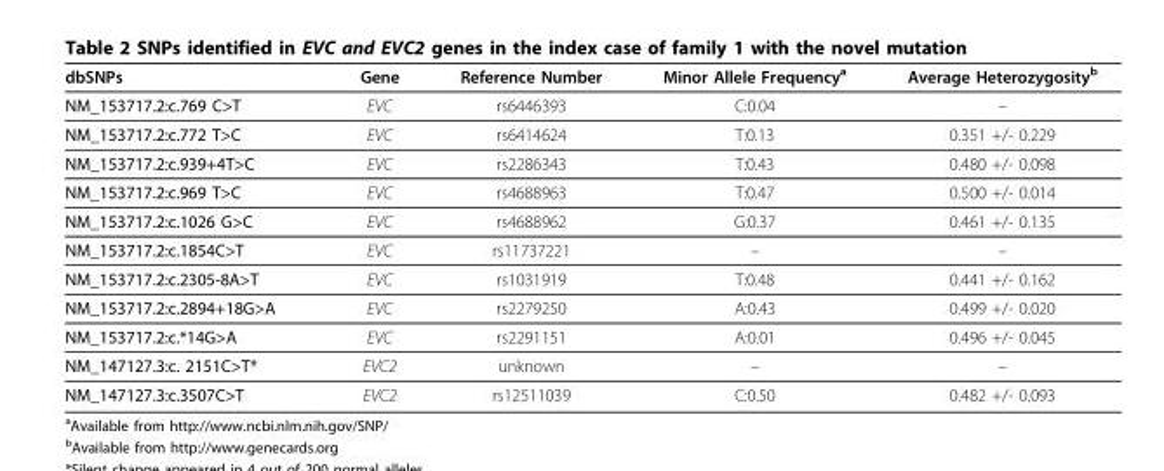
<table><thead><tr><td>dbSNPs</td><td>Gene</td><td>Reference Number</td><td>Minor Allele Frequencya</td><td>Average Heterozygosityb</td></tr></thead><tbody><tr><td>NM_153717.2:c.769 C&gt;T</td><td>EVC</td><td>rs6446393</td><td>C:0.04</td><td>–</td></tr><tr><td>NM_153717.2:c.772 T&gt;C</td><td>EVC</td><td>rs6414624</td><td>T:0.13</td><td>0.351 +/- 0.229</td></tr><tr><td>NM_153717.2:c.939+4T&gt;C</td><td>EVC</td><td>rs2286343</td><td>T:0.43</td><td>0.480 +/- 0.098</td></tr><tr><td>NM_153717.2:c.969 T&gt;C</td><td>EVC</td><td>rs4688963</td><td>T:0.47</td><td>0.500 +/- 0.014</td></tr><tr><td>NM_153717.2:c.1026 G&gt;C</td><td>EVC</td><td>rs4688962</td><td>G:0.37</td><td>0.461 +/- 0.135</td></tr><tr><td>NM_153717.2:c.1854C&gt;T</td><td>EVC</td><td>rs11737221</td><td>–</td><td>–</td></tr><tr><td>NM_153717.2:c.2305-8A&gt;T</td><td>EVC</td><td>rs1031919</td><td>T:0.48</td><td>0.441 +/- 0.162</td></tr><tr><td>NM_153717.2:c.2894+18G&gt;A</td><td>EVC</td><td>rs2279250</td><td>A:0.43</td><td>0.499 +/- 0.020</td></tr><tr><td>NM_153717.2:c.*14G&gt;A</td><td>EVC</td><td>rs2291151</td><td>A:0.01</td><td>0.496 +/- 0.045</td></tr><tr><td>NM_147127.3:c. 2151C&gt;T*</td><td>EVC2</td><td>unknown</td><td>–</td><td>–</td></tr><tr><td>NM_147127.3:c.3507C&gt;T</td><td>EVC2</td><td>rs12511039</td><td>C:0.50</td><td>0.482 +/- 0.093</td></tr></tbody></table>